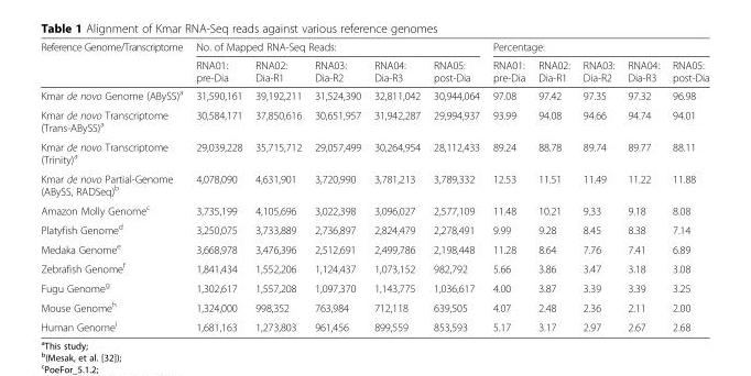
<table><thead><tr><td rowspan="2">Reference Genome/Transcriptome</td><td colspan="5">No. of Mapped RNA-Seq Reads:</td><td colspan="5">Percentage:</td></tr><tr><td>RNA01: pre-Dia</td><td>RNA02: Dia-R1</td><td>RNA03: Dia-R2</td><td>RNA04: Dia-R3</td><td>RNA05: post-Dia</td><td>RNA01: pre-Dia</td><td>RNA02: Dia-R1</td><td>RNA03: Dia-R2</td><td>RNA04: Dia-R3</td><td>RNA05: post-Dia</td></tr></thead><tbody><tr><td>Kmar de novo Genome (ABySS)<sup>a</sup></td><td>31,590,161</td><td>39,192,211</td><td>31,524,390</td><td>32,811,042</td><td>30,944,064</td><td>97.08</td><td>97.42</td><td>97.35</td><td>97.32</td><td>96.98</td></tr><tr><td>Kmar de novo Transcriptome (Trans-ABySS)<sup>a</sup></td><td>30,584,171</td><td>37,850,616</td><td>30,651,957</td><td>31,942,287</td><td>29,994,937</td><td>93.99</td><td>94.08</td><td>94.66</td><td>94.74</td><td>94.01</td></tr><tr><td>Kmar de novo Transcriptome (Trinity)<sup>a</sup></td><td>29,039,228</td><td>35,715,712</td><td>29,057,499</td><td>30,264,954</td><td>28,112,433</td><td>89.24</td><td>88.78</td><td>89.74</td><td>89.77</td><td>88.11</td></tr><tr><td>Kmar de novo Partial-Genome (ABySS, RADSeq)<sup>b</sup></td><td>4,078,090</td><td>4,631,901</td><td>3,720,990</td><td>3,781,213</td><td>3,789,332</td><td>12.53</td><td>11.51</td><td>11.49</td><td>11.22</td><td>11.88</td></tr><tr><td>Amazon Molly Genome<sup>c</sup></td><td>3,735,199</td><td>4,105,696</td><td>3,022,398</td><td>3,096,027</td><td>2,577,109</td><td>11.48</td><td>10.21</td><td>9.33</td><td>9.18</td><td>8.08</td></tr><tr><td>Platyfish Genome<sup>d</sup></td><td>3,250,075</td><td>3,733,889</td><td>2,736,897</td><td>2,824,479</td><td>2,278,491</td><td>9.99</td><td>9.28</td><td>8.45</td><td>8.38</td><td>7.14</td></tr><tr><td>Medaka Genome<sup>e</sup></td><td>3,668,978</td><td>3,476,396</td><td>2,512,691</td><td>2,499,786</td><td>2,198,448</td><td>11.28</td><td>8.64</td><td>7.76</td><td>7.41</td><td>6.89</td></tr><tr><td>Zebrafish Genome<sup>f</sup></td><td>1,841,434</td><td>1,552,206</td><td>1,124,437</td><td>1,073,152</td><td>982,792</td><td>5.66</td><td>3.86</td><td>3.47</td><td>3.18</td><td>3.08</td></tr><tr><td>Fugu Genome<sup>g</sup></td><td>1,302,617</td><td>1,557,208</td><td>1,097,370</td><td>1,143,775</td><td>1,036,617</td><td>4.00</td><td>3.87</td><td>3.39</td><td>3.39</td><td>3.25</td></tr><tr><td>Mouse Genome<sup>h</sup></td><td>1,324,000</td><td>998,352</td><td>763,984</td><td>712,118</td><td>639,505</td><td>4.07</td><td>2.48</td><td>2.36</td><td>2.11</td><td>2.00</td></tr><tr><td>Human Genome<sup>i</sup></td><td>1,681,163</td><td>1,273,803</td><td>961,456</td><td>899,559</td><td>853,593</td><td>5.17</td><td>3.17</td><td>2.97</td><td>2.67</td><td>2.68</td></tr></tbody></table>